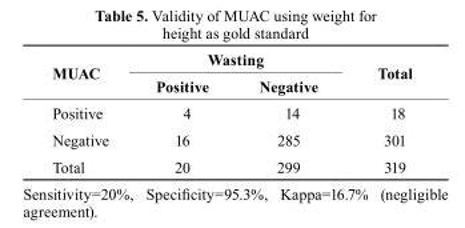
<table><thead><tr><td rowspan="2">MUAc</td><td colspan="2">Wasting</td><td rowspan="2">total</td></tr><tr><td>Positive</td><td>Negative</td></tr></thead><tbody><tr><td>Positive</td><td>4</td><td>14</td><td>18</td></tr><tr><td>Negative</td><td>16</td><td>285</td><td>301</td></tr><tr><td>Total</td><td>20</td><td>299</td><td>319</td></tr></tbody></table>